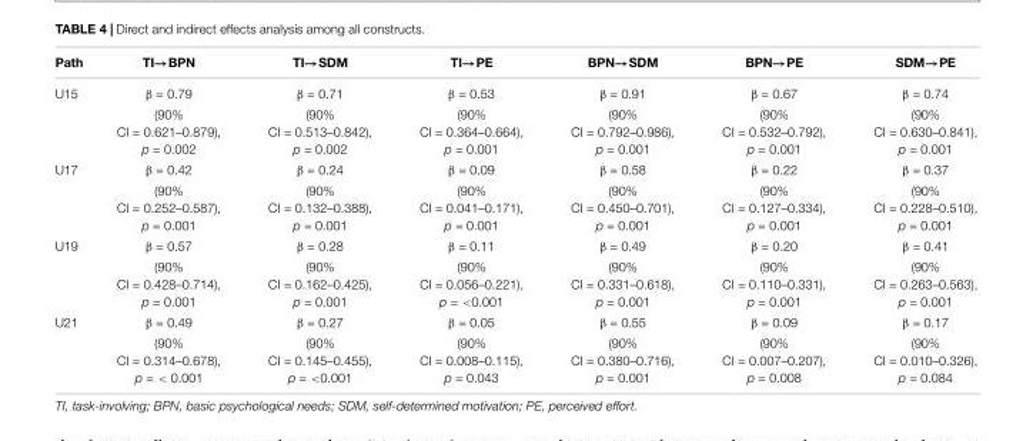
<table><thead><tr><td>Path</td><td>TI→BPN</td><td>TI→SDM</td><td>TI→PE</td><td>BPN→SDM</td><td>BPN→PE</td><td>SDM→PE</td></tr></thead><tbody><tr><td rowspan="2">U15</td><td>β = 0.79</td><td>β = 0.71</td><td>β = 0.53</td><td>β = 0.91</td><td>β = 0.67</td><td>β = 0.74</td></tr><tr><td>(90% CI = 0.621–0.879), p = 0.002</td><td>(90% CI = 0.513–0.842), p = 0.002</td><td>(90% CI = 0.364–0.664), p = 0.001</td><td>(90% CI = 0.792–0.986), p = 0.001</td><td>(90% CI = 0.532–0.792), p = 0.001</td><td>(90% CI = 0.630–0.841), p = 0.001</td></tr><tr><td rowspan="2">U17</td><td>β = 0.42</td><td>β = 0.24</td><td>β = 0.09</td><td>β = 0.58</td><td>β = 0.22</td><td>β = 0.37</td></tr><tr><td>(90% CI = 0.252–0.587), p = 0.001</td><td>(90% CI = 0.132–0.388), p = 0.001</td><td>(90% CI = 0.041–0.171), p = 0.001</td><td>(90% CI = 0.450–0.701), p = 0.001</td><td>(90% CI = 0.127–0.334), p = 0.001</td><td>(90% CI = 0.228–0.510), p = 0.001</td></tr><tr><td rowspan="2">U19</td><td>β = 0.57</td><td>β = 0.28</td><td>β = 0.11</td><td>β = 0.49</td><td>β = 0.20</td><td>β = 0.41</td></tr><tr><td>(90% CI = 0.428–0.714), p = 0.001</td><td>(90% CI = 0.162–0.425), p = 0.001</td><td>(90% CI = 0.056–0.221), p = &lt;0.001</td><td>(90% CI = 0.331–0.618), p = 0.001</td><td>(90% CI = 0.110–0.331), p = 0.001</td><td>(90% CI = 0.263–0.563), p = 0.001</td></tr><tr><td rowspan="2">U21</td><td>β = 0.49</td><td>β = 0.27</td><td>β = 0.05</td><td>β = 0.55</td><td>β = 0.09</td><td>β = 0.17</td></tr><tr><td>(90% CI = 0.314–0.678), p = &lt; 0.001</td><td>(90% CI = 0.145–0.455), p = &lt;0.001</td><td>(90% CI = 0.008–0.115), p = 0.043</td><td>(90% CI = 0.380–0.716), p = 0.001</td><td>(90% CI = 0.007–0.207), p = 0.008</td><td>(90% CI = 0.010–0.326), p = 0.084</td></tr></tbody></table>